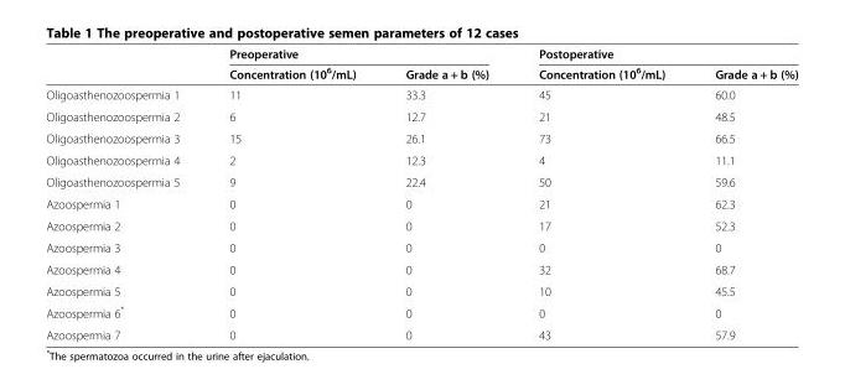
<table><thead><tr><td rowspan="2"></td><td colspan="2">Preoperative</td><td colspan="2">Postoperative</td></tr><tr><td>Concentration (10<sup>6</sup>/mL)</td><td>Grade a + b (%)</td><td>Concentration (10<sup>6</sup>/mL)</td><td>Grade a + b (%)</td></tr></thead><tbody><tr><td>Oligoasthenozoospermia 1</td><td>11</td><td>33.3</td><td>45</td><td>60.0</td></tr><tr><td>Oligoasthenozoospermia 2</td><td>6</td><td>12.7</td><td>21</td><td>48.5</td></tr><tr><td>Oligoasthenozoospermia 3</td><td>15</td><td>26.1</td><td>73</td><td>66.5</td></tr><tr><td>Oligoasthenozoospermia 4</td><td>2</td><td>12.3</td><td>4</td><td>11.1</td></tr><tr><td>Oligoasthenozoospermia 5</td><td>9</td><td>22.4</td><td>50</td><td>59.6</td></tr><tr><td>Azoospermia 1</td><td>0</td><td>0</td><td>21</td><td>62.3</td></tr><tr><td>Azoospermia 2</td><td>0</td><td>0</td><td>17</td><td>52.3</td></tr><tr><td>Azoospermia 3</td><td>0</td><td>0</td><td>0</td><td>0</td></tr><tr><td>Azoospermia 4</td><td>0</td><td>0</td><td>32</td><td>68.7</td></tr><tr><td>Azoospermia 5</td><td>0</td><td>0</td><td>10</td><td>45.5</td></tr><tr><td>Azoospermia 6*</td><td>0</td><td>0</td><td>0</td><td>0</td></tr><tr><td>Azoospermia 7</td><td>0</td><td>0</td><td>43</td><td>57.9</td></tr></tbody></table>